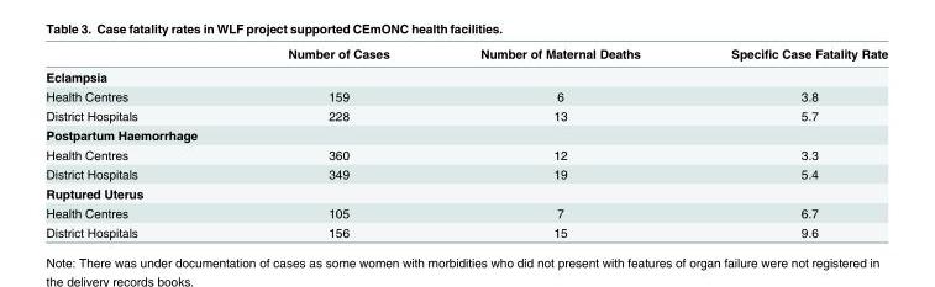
<table><thead><tr><td></td><td>Number of Cases</td><td>Number of Maternal Deaths</td><td>Specific Case Fatality Rate</td></tr></thead><tbody><tr><td colspan="4">Eclampsia</td></tr><tr><td>Health Centres</td><td>159</td><td>6</td><td>3.8</td></tr><tr><td>District Hospitals</td><td>228</td><td>13</td><td>5.7</td></tr><tr><td colspan="4">Postpartum Haemorrhage</td></tr><tr><td>Health Centres</td><td>360</td><td>12</td><td>3.3</td></tr><tr><td>District Hospitals</td><td>349</td><td>19</td><td>5.4</td></tr><tr><td colspan="4">Ruptured Uterus</td></tr><tr><td>Health Centres</td><td>105</td><td>7</td><td>6.7</td></tr><tr><td>District Hospitals</td><td>156</td><td>15</td><td>9.6</td></tr></tbody></table>